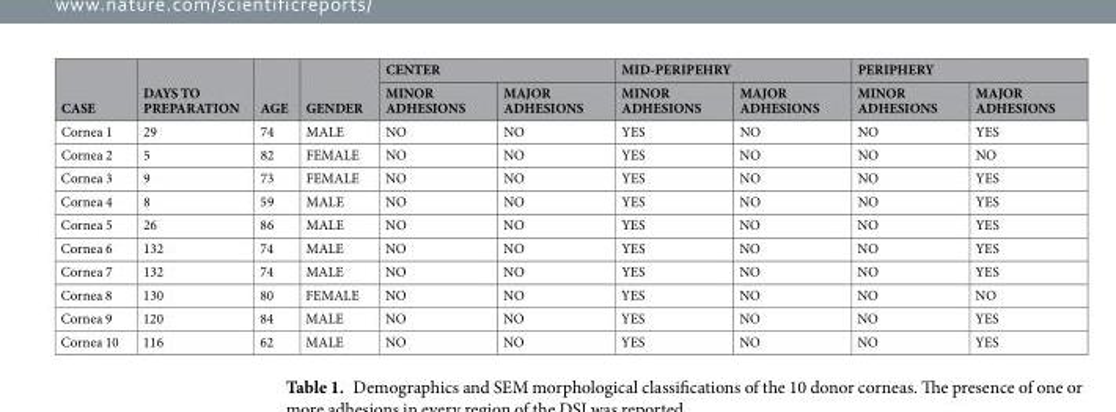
<table><thead><tr><td rowspan="2">CASE</td><td rowspan="2">DAYS TO PREPARATION</td><td rowspan="2">AGE</td><td rowspan="2">GENDER</td><td colspan="2">CENTER</td><td colspan="2">MID-PERIPEHRY</td><td colspan="2">PERIPHERY</td></tr><tr><td>MINOR ADHESIONS</td><td>MAJOR ADHESIONS</td><td>MINOR ADHESIONS</td><td>MAJOR ADHESIONS</td><td>MINOR ADHESIONS</td><td>MAJOR ADHESIONS</td></tr></thead><tbody><tr><td>Cornea 1</td><td>29</td><td>74</td><td>MALE</td><td>NO</td><td>NO</td><td>YES</td><td>NO</td><td>NO</td><td>YES</td></tr><tr><td>Cornea 2</td><td>5</td><td>82</td><td>FEMALE</td><td>NO</td><td>NO</td><td>YES</td><td>NO</td><td>NO</td><td>NO</td></tr><tr><td>Cornea 3</td><td>9</td><td>73</td><td>FEMALE</td><td>NO</td><td>NO</td><td>YES</td><td>NO</td><td>NO</td><td>YES</td></tr><tr><td>Cornea 4</td><td>8</td><td>59</td><td>MALE</td><td>NO</td><td>NO</td><td>YES</td><td>NO</td><td>NO</td><td>YES</td></tr><tr><td>Cornea 5</td><td>26</td><td>86</td><td>MALE</td><td>NO</td><td>NO</td><td>YES</td><td>NO</td><td>NO</td><td>YES</td></tr><tr><td>Cornea 6</td><td>132</td><td>74</td><td>MALE</td><td>NO</td><td>NO</td><td>YES</td><td>NO</td><td>NO</td><td>YES</td></tr><tr><td>Cornea 7</td><td>132</td><td>74</td><td>MALE</td><td>NO</td><td>NO</td><td>YES</td><td>NO</td><td>NO</td><td>YES</td></tr><tr><td>Cornea 8</td><td>130</td><td>80</td><td>FEMALE</td><td>NO</td><td>NO</td><td>YES</td><td>NO</td><td>NO</td><td>NO</td></tr><tr><td>Cornea 9</td><td>120</td><td>84</td><td>MALE</td><td>NO</td><td>NO</td><td>YES</td><td>NO</td><td>NO</td><td>YES</td></tr><tr><td>Cornea 10</td><td>116</td><td>62</td><td>MALE</td><td>NO</td><td>NO</td><td>YES</td><td>NO</td><td>NO</td><td>YES</td></tr></tbody></table>